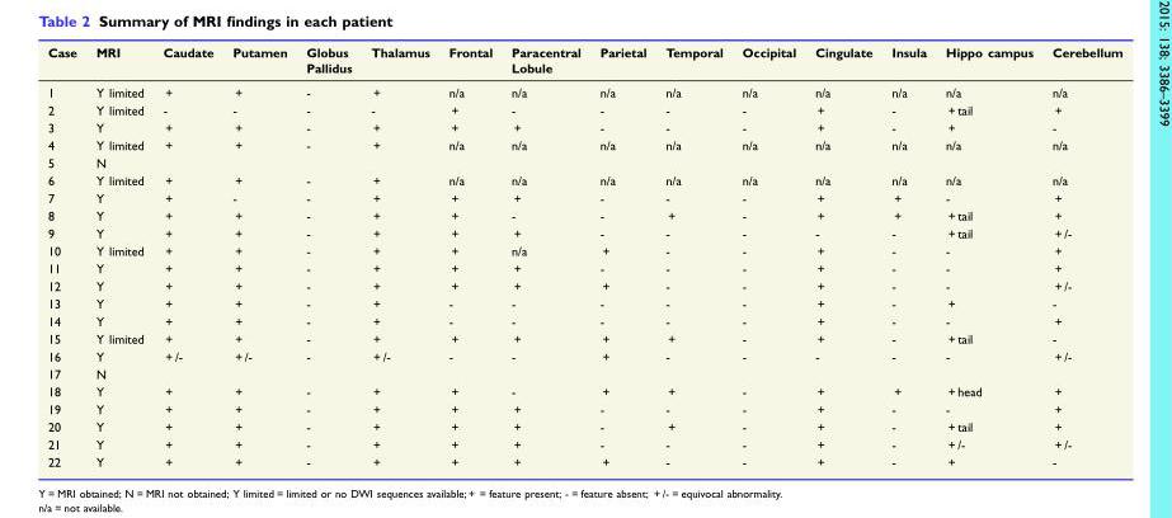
<table><thead><tr><td>Case</td><td>MRI</td><td>Caudate</td><td>Putamen</td><td>Globus Pallidus</td><td>Thalamus</td><td>Frontal</td><td>Paracentral Lobule</td><td>Parietal</td><td>Temporal</td><td>Occipital</td><td>Cingulate</td><td>Insula</td><td>Hippo campus</td><td>Cerebellum</td></tr></thead><tbody><tr><td>1</td><td>Y limited</td><td>+</td><td>+</td><td>-</td><td>+</td><td>n/a</td><td>n/a</td><td>n/a</td><td>n/a</td><td>n/a</td><td>n/a</td><td>n/a</td><td>n/a</td><td>n/a</td></tr><tr><td>2</td><td>Y limited</td><td>-</td><td>-</td><td>-</td><td>-</td><td>+</td><td>-</td><td>-</td><td>-</td><td>-</td><td>+</td><td>-</td><td>+ tail</td><td>+</td></tr><tr><td>3</td><td>Y</td><td>+</td><td>+</td><td>-</td><td>+</td><td>+</td><td>+</td><td>-</td><td>-</td><td>-</td><td>+</td><td>-</td><td>+</td><td>-</td></tr><tr><td>4</td><td>Y limited</td><td>+</td><td>+</td><td>-</td><td>+</td><td>n/a</td><td>n/a</td><td>n/a</td><td>n/a</td><td>n/a</td><td>n/a</td><td>n/a</td><td>n/a</td><td>n/a</td></tr><tr><td>5</td><td>N</td><td></td><td></td><td></td><td></td><td></td><td></td><td></td><td></td><td></td><td></td><td></td><td></td><td></td></tr><tr><td>6</td><td>Y limited</td><td>+</td><td>+</td><td>-</td><td>+</td><td>n/a</td><td>n/a</td><td>n/a</td><td>n/a</td><td>n/a</td><td>n/a</td><td>n/a</td><td>n/a</td><td>n/a</td></tr><tr><td>7</td><td>Y</td><td>+</td><td>-</td><td>-</td><td>+</td><td>+</td><td>+</td><td>-</td><td>-</td><td>-</td><td>+</td><td>+</td><td>-</td><td>+</td></tr><tr><td>8</td><td>Y</td><td>+</td><td>+</td><td>-</td><td>+</td><td>+</td><td>-</td><td>-</td><td>+</td><td>-</td><td>+</td><td>+</td><td>+ tail</td><td>+</td></tr><tr><td>9</td><td>Y</td><td>+</td><td>+</td><td>-</td><td>+</td><td>+</td><td>+</td><td>-</td><td>-</td><td>-</td><td>-</td><td>-</td><td>+ tail</td><td>+ /-</td></tr><tr><td>10</td><td>Y limited</td><td>+</td><td>+</td><td>-</td><td>+</td><td>+</td><td>n/a</td><td>+</td><td>-</td><td>-</td><td>+</td><td>-</td><td>-</td><td>+</td></tr><tr><td>11</td><td>Y</td><td>+</td><td>+</td><td>-</td><td>+</td><td>+</td><td>+</td><td>-</td><td>-</td><td>-</td><td>+</td><td>-</td><td>-</td><td>+</td></tr><tr><td>12</td><td>Y</td><td>+</td><td>+</td><td>-</td><td>+</td><td>+</td><td>+</td><td>+</td><td>-</td><td>-</td><td>+</td><td>-</td><td>-</td><td>+ /-</td></tr><tr><td>13</td><td>Y</td><td>+</td><td>+</td><td>-</td><td>+</td><td>-</td><td>-</td><td>-</td><td>-</td><td>-</td><td>+</td><td>-</td><td>+</td><td>-</td></tr><tr><td>14</td><td>Y</td><td>+</td><td>+</td><td>-</td><td>+</td><td>-</td><td>-</td><td>-</td><td>-</td><td>-</td><td>+</td><td>-</td><td>-</td><td>+</td></tr><tr><td>15</td><td>Y limited</td><td>+</td><td>+</td><td>-</td><td>+</td><td>+</td><td>+</td><td>+</td><td>+</td><td>-</td><td>+</td><td>-</td><td>+ tail</td><td>-</td></tr><tr><td>16</td><td>Y</td><td>+ /-</td><td>+ /-</td><td>-</td><td>+ /-</td><td>-</td><td>-</td><td>+</td><td>-</td><td>-</td><td>-</td><td>-</td><td>-</td><td>+ /-</td></tr><tr><td>17</td><td>N</td><td></td><td></td><td></td><td></td><td></td><td></td><td></td><td></td><td></td><td></td><td></td><td></td><td></td></tr><tr><td>18</td><td>Y</td><td>+</td><td>+</td><td>-</td><td>+</td><td>+</td><td>-</td><td>+</td><td>+</td><td>-</td><td>+</td><td>+</td><td>+ head</td><td>+</td></tr><tr><td>19</td><td>Y</td><td>+</td><td>+</td><td>-</td><td>+</td><td>+</td><td>+</td><td>-</td><td>-</td><td>-</td><td>+</td><td>-</td><td>-</td><td>+</td></tr><tr><td>20</td><td>Y</td><td>+</td><td>+</td><td>-</td><td>+</td><td>+</td><td>+</td><td>-</td><td>+</td><td>-</td><td>+</td><td>-</td><td>+ tail</td><td>+</td></tr><tr><td>21</td><td>Y</td><td>+</td><td>+</td><td>-</td><td>+</td><td>+</td><td>+</td><td>-</td><td>-</td><td>-</td><td>+</td><td>-</td><td>+ /-</td><td>+ /-</td></tr><tr><td>22</td><td>Y</td><td>+</td><td>+</td><td>-</td><td>+</td><td>+</td><td>+</td><td>+</td><td>-</td><td>-</td><td>+</td><td>-</td><td>+</td><td>-</td></tr></tbody></table>